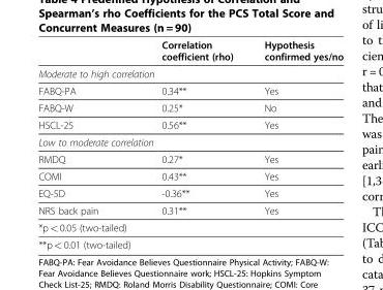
<table><thead><tr><td></td><td>Correlation coefficient (rho)</td><td>Hypothesis confirmed yes/no</td></tr></thead><tbody><tr><td colspan="3">Moderate to high correlation</td></tr><tr><td>FABQ-PA</td><td>0.34**</td><td>Yes</td></tr><tr><td>FABQ-W</td><td>0.25*</td><td>No</td></tr><tr><td>HSCL-25</td><td>0.56**</td><td>Yes</td></tr><tr><td colspan="3">Low to moderate correlation</td></tr><tr><td>RMDQ</td><td>0.27*</td><td>Yes</td></tr><tr><td>COMI</td><td>0.43**</td><td>Yes</td></tr><tr><td>EQ-5D</td><td>-0.36**</td><td>Yes</td></tr><tr><td>NRS back pain</td><td>0.31**</td><td>Yes</td></tr><tr><td colspan="3">*p &lt; 0.05 (two-tailed)</td></tr><tr><td>**p &lt; 0.01 (two-tailed)</td><td></td><td></td></tr></tbody></table>